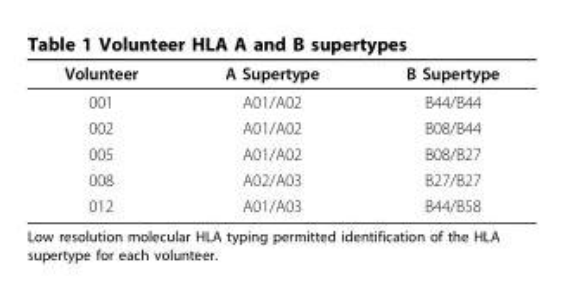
<table><thead><tr><td>Volunteer</td><td>A Supertype</td><td>B Supertype</td></tr></thead><tbody><tr><td>001</td><td>A01/A02</td><td>B44/B44</td></tr><tr><td>002</td><td>A01/A02</td><td>B08/B44</td></tr><tr><td>005</td><td>A01/A02</td><td>B08/B27</td></tr><tr><td>008</td><td>A02/A03</td><td>B27/B27</td></tr><tr><td>012</td><td>A01/A03</td><td>B44/B58</td></tr></tbody></table>